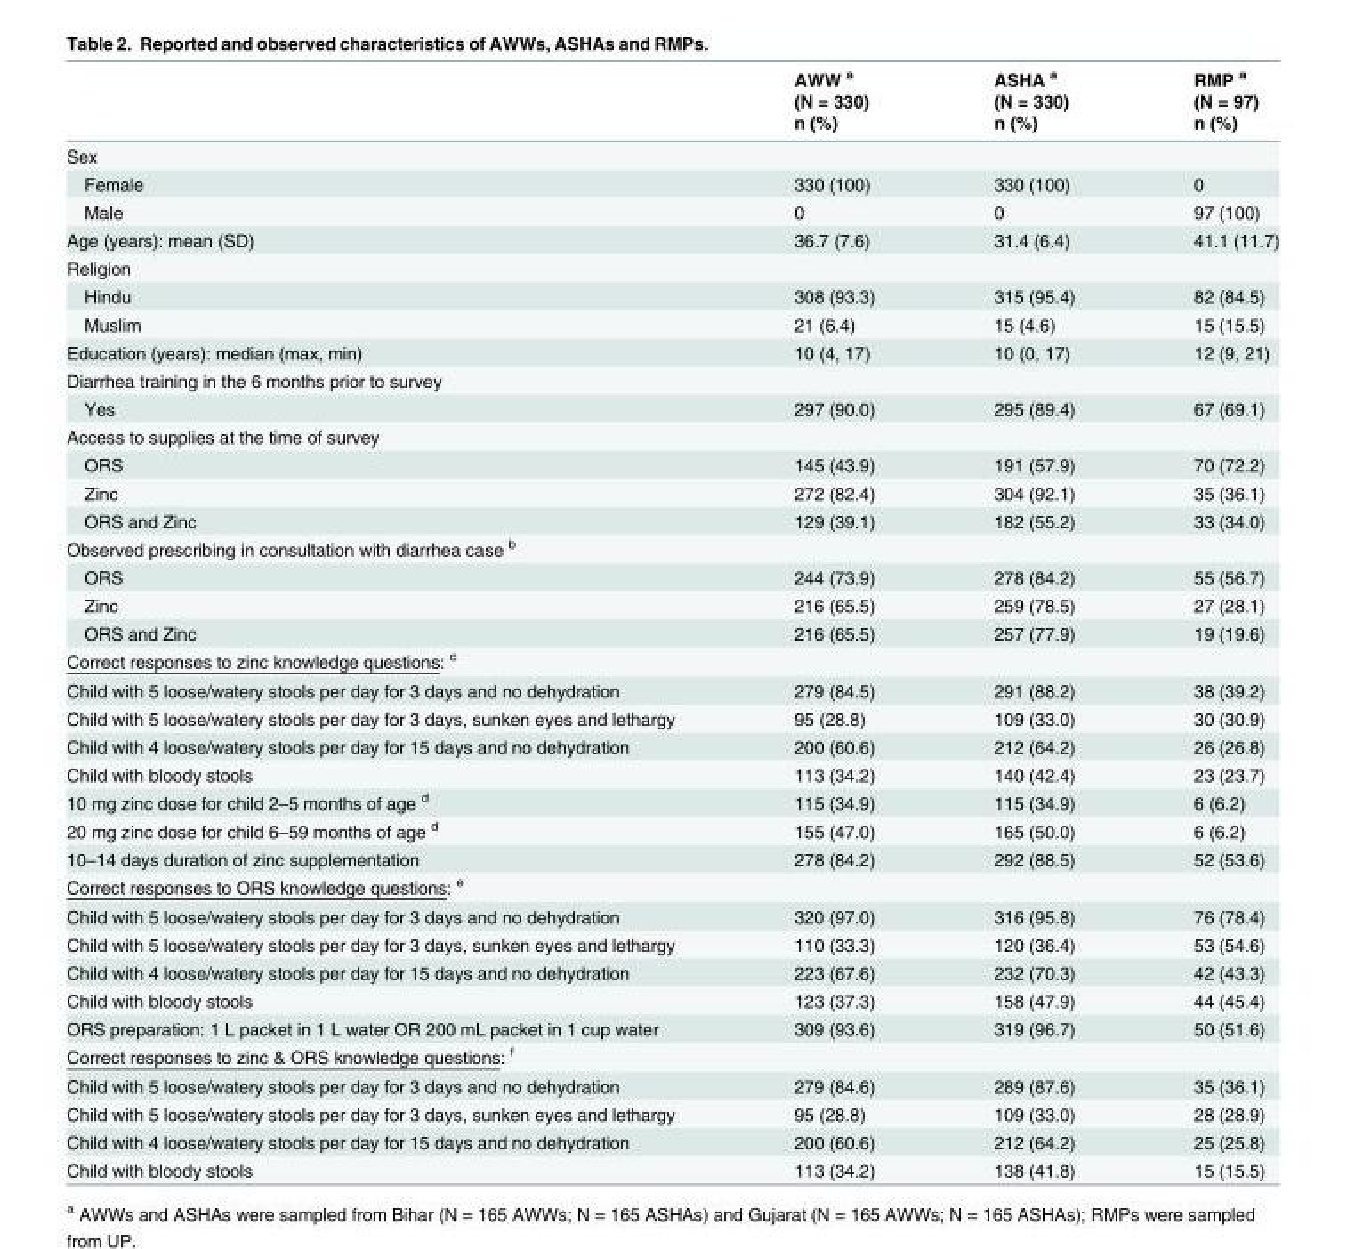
<table><thead><tr><td rowspan="3"></td><td rowspan="3">AWW <sup>a</sup> (N = 330) n (%)</td><td rowspan="3">ASHA <sup>a</sup> (N = 330) n (%)</td><td rowspan="3">RMP <sup>a</sup> (N = 97) n (%)</td></tr><tr></tr><tr></tr></thead><tbody><tr><td colspan="4">Sex</td></tr><tr><td>Female</td><td>330 (100)</td><td>330 (100)</td><td>0</td></tr><tr><td>Male</td><td>0</td><td>0</td><td>97 (100)</td></tr><tr><td>Age (years): mean (SD)</td><td>36.7 (7.6)</td><td>31.4 (6.4)</td><td>41.1 (11.7)</td></tr><tr><td colspan="4">Religion</td></tr><tr><td>Hindu</td><td>308 (93.3)</td><td>315 (95.4)</td><td>82 (84.5)</td></tr><tr><td>Muslim</td><td>21 (6.4)</td><td>15 (4.6)</td><td>15 (15.5)</td></tr><tr><td>Education (years): median (max, min)</td><td>10 (4, 17)</td><td>10 (0, 17)</td><td>12 (9, 21)</td></tr><tr><td colspan="4">Diarrhea training in the 6 months prior to survey</td></tr><tr><td>Yes</td><td>297 (90.0)</td><td>295 (89.4)</td><td>67 (69.1)</td></tr><tr><td colspan="4">Access to supplies at the time of survey</td></tr><tr><td>ORS</td><td>145 (43.9)</td><td>191 (57.9)</td><td>70 (72.2)</td></tr><tr><td>Zinc</td><td>272 (82.4)</td><td>304 (92.1)</td><td>35 (36.1)</td></tr><tr><td>ORS and Zinc</td><td>129 (39.1)</td><td>182 (55.2)</td><td>33 (34.0)</td></tr><tr><td colspan="4">Observed prescribing in consultation with diarrhea case <sup>b</sup></td></tr><tr><td>ORS</td><td>244 (73.9)</td><td>278 (84.2)</td><td>55 (56.7)</td></tr><tr><td>Zinc</td><td>216 (65.5)</td><td>259 (78.5)</td><td>27 (28.1)</td></tr><tr><td>ORS and Zinc</td><td>216 (65.5)</td><td>257 (77.9)</td><td>19 (19.6)</td></tr><tr><td colspan="4">Correct responses to zinc knowledge questions: <sup>c</sup></td></tr><tr><td>Child with 5 loose/watery stools per day for 3 days and no dehydration</td><td>279 (84.5)</td><td>291 (88.2)</td><td>38 (39.2)</td></tr><tr><td>Child with 5 loose/watery stools per day for 3 days, sunken eyes and lethargy</td><td>95 (28.8)</td><td>109 (33.0)</td><td>30 (30.9)</td></tr><tr><td>Child with 4 loose/watery stools per day for 15 days and no dehydration</td><td>200 (60.6)</td><td>212 (64.2)</td><td>26 (26.8)</td></tr><tr><td>Child with bloody stools</td><td>113 (34.2)</td><td>140 (42.4)</td><td>23 (23.7)</td></tr><tr><td>10 mg zinc dose for child 2–5 months of age <sup>d</sup></td><td>115 (34.9)</td><td>115 (34.9)</td><td>6 (6.2)</td></tr><tr><td>20 mg zinc dose for child 6–59 months of age <sup>d</sup></td><td>155 (47.0)</td><td>165 (50.0)</td><td>6 (6.2)</td></tr><tr><td>10–14 days duration of zinc supplementation</td><td>278 (84.2)</td><td>292 (88.5)</td><td>52 (53.6)</td></tr><tr><td colspan="4">Correct responses to ORS knowledge questions: <sup>e</sup></td></tr><tr><td>Child with 5 loose/watery stools per day for 3 days and no dehydration</td><td>320 (97.0)</td><td>316 (95.8)</td><td>76 (78.4)</td></tr><tr><td>Child with 5 loose/watery stools per day for 3 days, sunken eyes and lethargy</td><td>110 (33.3)</td><td>120 (36.4)</td><td>53 (54.6)</td></tr><tr><td>Child with 4 loose/watery stools per day for 15 days and no dehydration</td><td>223 (67.6)</td><td>232 (70.3)</td><td>42 (43.3)</td></tr><tr><td>Child with bloody stools</td><td>123 (37.3)</td><td>158 (47.9)</td><td>44 (45.4)</td></tr><tr><td>ORS preparation: 1 L packet in 1 L water OR 200 mL packet in 1 cup water</td><td>309 (93.6)</td><td>319 (96.7)</td><td>50 (51.6)</td></tr><tr><td colspan="4">Correct responses to zinc &amp; ORS knowledge questions: <sup>f</sup></td></tr><tr><td>Child with 5 loose/watery stools per day for 3 days and no dehydration</td><td>279 (84.6)</td><td>289 (87.6)</td><td>35 (36.1)</td></tr><tr><td>Child with 5 loose/watery stools per day for 3 days, sunken eyes and lethargy</td><td>95 (28.8)</td><td>109 (33.0)</td><td>28 (28.9)</td></tr><tr><td>Child with 4 loose/watery stools per day for 15 days and no dehydration</td><td>200 (60.6)</td><td>212 (64.2)</td><td>25 (25.8)</td></tr><tr><td>Child with bloody stools</td><td>113 (34.2)</td><td>138 (41.8)</td><td>15 (15.5)</td></tr></tbody></table>